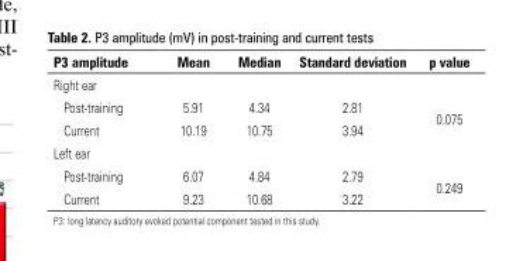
<table><thead><tr><td>P3 amplitude</td><td>Mean</td><td>Median</td><td>Standard deviation</td><td>p value</td></tr></thead><tbody><tr><td colspan="5">Right ear</td></tr><tr><td>Post-training</td><td>5.91</td><td>4.34</td><td>2.81</td><td rowspan="2">0.075</td></tr><tr><td>Current</td><td>10.19</td><td>10.75</td><td>3.94</td></tr><tr><td colspan="5">Left ear</td></tr><tr><td>Post-training</td><td>6.07</td><td>4.84</td><td>2.79</td><td rowspan="2">0.249</td></tr><tr><td>Current</td><td>9.23</td><td>10.68</td><td>3.22</td></tr></tbody></table>